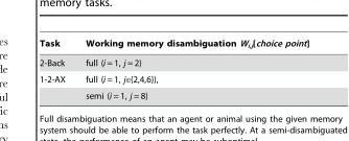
<table><thead><tr><td>Task</td><td>Working memory disambiguation W<sub>i,j</sub>[choice point]</td></tr></thead><tbody><tr><td>2-Back</td><td>full (i = 1, j = 2)</td></tr><tr><td rowspan="2">1-2-AX</td><td>full (i = 1, j∈{2,4,6}),</td></tr><tr><td>semi (i = 1, j = 8)</td></tr></tbody></table>